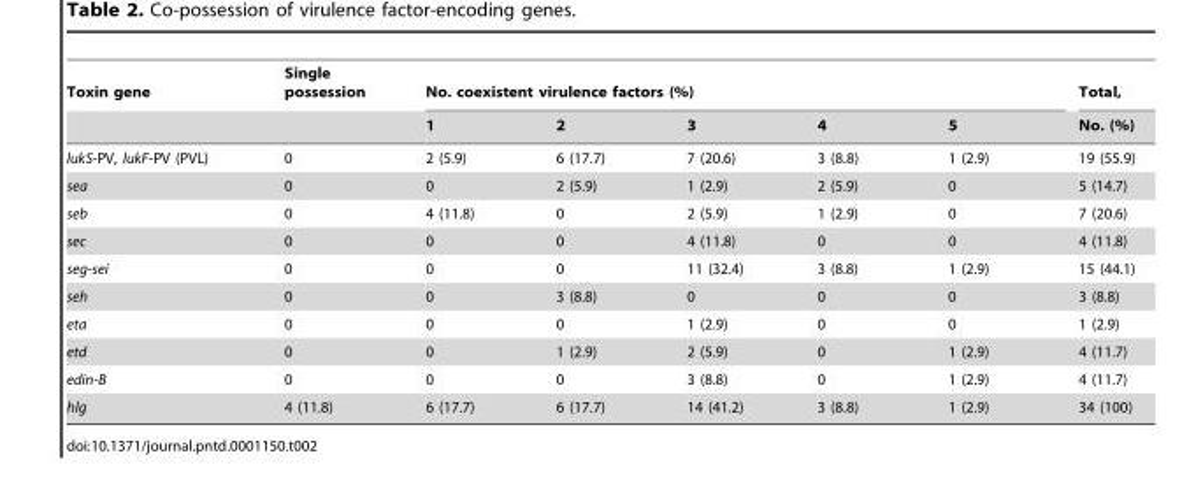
<table><thead><tr><td rowspan="2">Toxin gene</td><td rowspan="2">Single possession</td><td colspan="5">No. coexistent virulence factors (%)</td><td rowspan="2">Total, No. (%)</td></tr><tr><td>1</td><td>2</td><td>3</td><td>4</td><td>5</td></tr></thead><tbody><tr><td>lukS-PV, lukF-PV (PVL)</td><td>0</td><td>2 (5.9)</td><td>6 (17.7)</td><td>7 (20.6)</td><td>3 (8.8)</td><td>1 (2.9)</td><td>19 (55.9)</td></tr><tr><td>sea</td><td>0</td><td>0</td><td>2 (5.9)</td><td>1 (2.9)</td><td>2 (5.9)</td><td>0</td><td>5 (14.7)</td></tr><tr><td>seb</td><td>0</td><td>4 (11.8)</td><td>0</td><td>2 (5.9)</td><td>1 (2.9)</td><td>0</td><td>7 (20.6)</td></tr><tr><td>sec</td><td>0</td><td>0</td><td>0</td><td>4 (11.8)</td><td>0</td><td>0</td><td>4 (11.8)</td></tr><tr><td>seg-sei</td><td>0</td><td>0</td><td>0</td><td>11 (32.4)</td><td>3 (8.8)</td><td>1 (2.9)</td><td>15 (44.1)</td></tr><tr><td>seh</td><td>0</td><td>0</td><td>3 (8.8)</td><td>0</td><td>0</td><td>0</td><td>3 (8.8)</td></tr><tr><td>eta</td><td>0</td><td>0</td><td>0</td><td>1 (2.9)</td><td>0</td><td>0</td><td>1 (2.9)</td></tr><tr><td>etd</td><td>0</td><td>0</td><td>1 (2.9)</td><td>2 (5.9)</td><td>0</td><td>1 (2.9)</td><td>4 (11.7)</td></tr><tr><td>edin-B</td><td>0</td><td>0</td><td>0</td><td>3 (8.8)</td><td>0</td><td>1 (2.9)</td><td>4 (11.7)</td></tr><tr><td>hlg</td><td>4 (11.8)</td><td>6 (17.7)</td><td>6 (17.7)</td><td>14 (41.2)</td><td>3 (8.8)</td><td>1 (2.9)</td><td>34 (100)</td></tr></tbody></table>